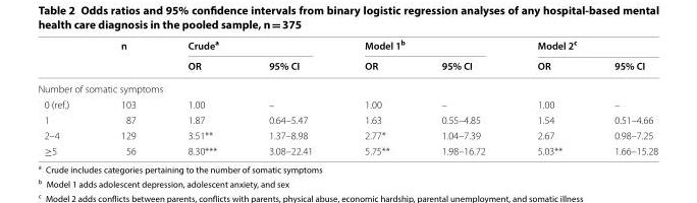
<table><thead><tr><td rowspan="2"></td><td rowspan="2">n</td><td colspan="2">Crude<sup>a</sup></td><td colspan="2">Model 1<sup>b</sup></td><td colspan="2">Model 2<sup>c</sup></td></tr><tr><td>OR</td><td>95% CI</td><td>OR</td><td>95% CI</td><td>OR</td><td>95% CI</td></tr></thead><tbody><tr><td colspan="8">Number of somatic symptoms</td></tr><tr><td>0 (ref.)</td><td>103</td><td>1.00</td><td>–</td><td>1.00</td><td>–</td><td>1.00</td><td>–</td></tr><tr><td>1</td><td>87</td><td>1.87</td><td>0.64–5.47</td><td>1.63</td><td>0.55–4.85</td><td>1.54</td><td>0.51–4.66</td></tr><tr><td>2–4</td><td>129</td><td>3.51**</td><td>1.37–8.98</td><td>2.77*</td><td>1.04–7.39</td><td>2.67</td><td>0.98–7.25</td></tr><tr><td>≥5</td><td>56</td><td>8.30***</td><td>3.08–22.41</td><td>5.75**</td><td>1.98–16.72</td><td>5.03**</td><td>1.66–15.28</td></tr></tbody></table>